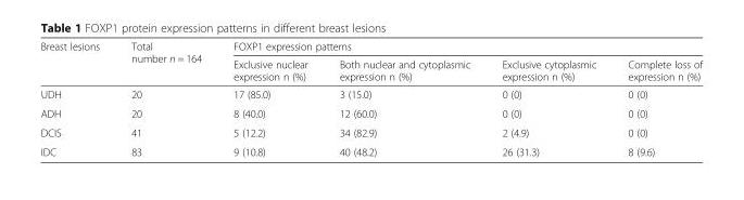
<table><thead><tr><td rowspan="2">Breast lesions</td><td rowspan="2">Total number n = 164</td><td colspan="4">FOXP1 expression patterns</td></tr><tr><td>Exclusive nuclear expression n (%)</td><td>Both nuclear and cytoplasmic expression n (%)</td><td>Exclusive cytoplasmic expression n (%)</td><td>Complete loss of expression n (%)</td></tr></thead><tbody><tr><td>UDH</td><td>20</td><td>17 (85.0)</td><td>3 (15.0)</td><td>0 (0)</td><td>0 (0)</td></tr><tr><td>ADH</td><td>20</td><td>8 (40.0)</td><td>12 (60.0)</td><td>0 (0)</td><td>0 (0)</td></tr><tr><td>DCIS</td><td>41</td><td>5 (12.2)</td><td>34 (82.9)</td><td>2 (4.9)</td><td>0 (0)</td></tr><tr><td>IDC</td><td>83</td><td>9 (10.8)</td><td>40 (48.2)</td><td>26 (31.3)</td><td>8 (9.6)</td></tr></tbody></table>